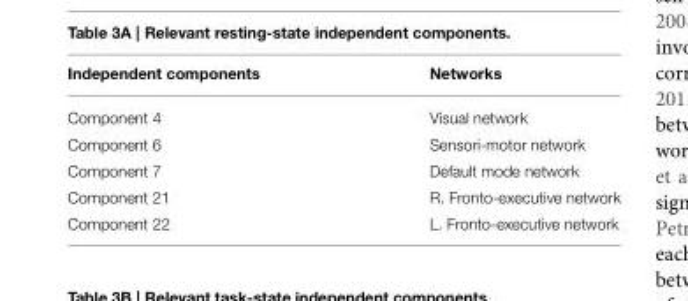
<table><thead><tr><td>Independent components</td><td>Networks</td></tr></thead><tbody><tr><td>Component 4</td><td>Visual network</td></tr><tr><td>Component 6</td><td>Sensori-motor network</td></tr><tr><td>Component 7</td><td>Default mode network</td></tr><tr><td>Component 21</td><td>R. Fronto-executive network</td></tr><tr><td>Component 22</td><td>L. Fronto-executive network</td></tr></tbody></table>